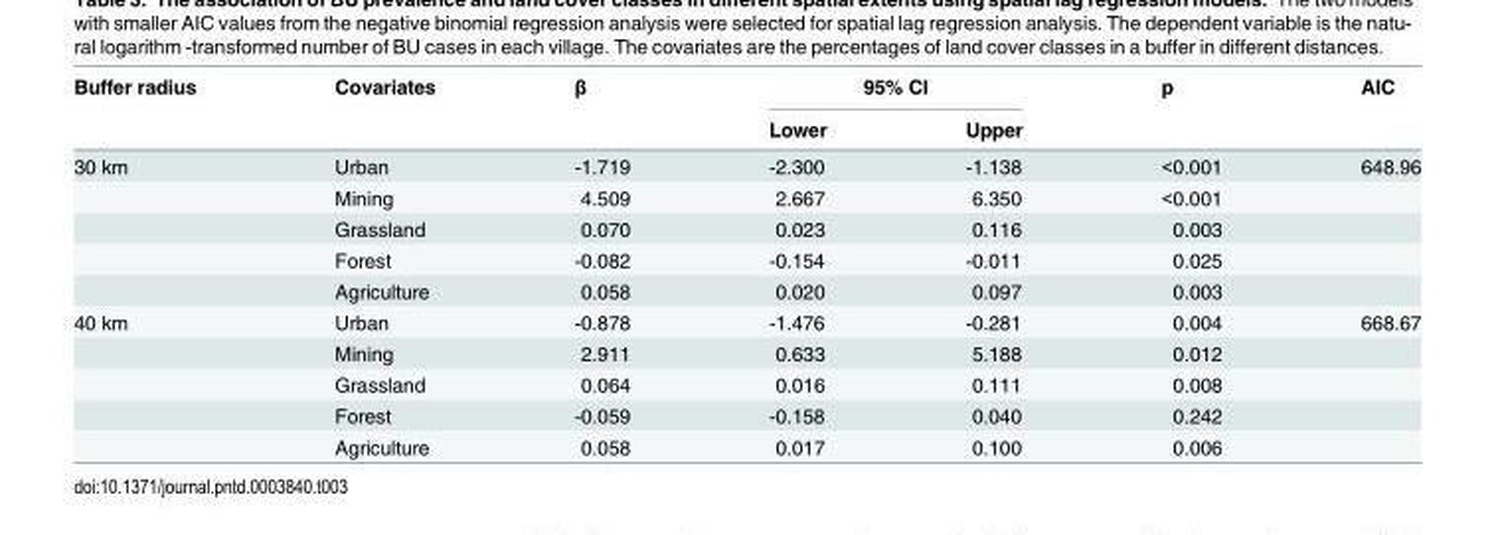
<table><thead><tr><td rowspan="2">Buffer radius</td><td rowspan="2">Covariates</td><td rowspan="2">β</td><td colspan="2">95% CI</td><td rowspan="2">p</td><td rowspan="2">AIC</td></tr><tr><td>Lower</td><td>Upper</td></tr></thead><tbody><tr><td rowspan="5">30 km</td><td>Urban</td><td>-1.719</td><td>-2.300</td><td>-1.138</td><td>&lt;0.001</td><td>648.96</td></tr><tr><td>Mining</td><td>4.509</td><td>2.667</td><td>6.350</td><td>&lt;0.001</td><td></td></tr><tr><td>Grassland</td><td>0.070</td><td>0.023</td><td>0.116</td><td>0.003</td><td></td></tr><tr><td>Forest</td><td>-0.082</td><td>-0.154</td><td>-0.011</td><td>0.025</td><td></td></tr><tr><td>Agriculture</td><td>0.058</td><td>0.020</td><td>0.097</td><td>0.003</td><td></td></tr><tr><td rowspan="5">40 km</td><td>Urban</td><td>-0.878</td><td>-1.476</td><td>-0.281</td><td>0.004</td><td>668.67</td></tr><tr><td>Mining</td><td>2.911</td><td>0.633</td><td>5.188</td><td>0.012</td><td></td></tr><tr><td>Grassland</td><td>0.064</td><td>0.016</td><td>0.111</td><td>0.008</td><td></td></tr><tr><td>Forest</td><td>-0.059</td><td>-0.158</td><td>0.040</td><td>0.242</td><td></td></tr><tr><td>Agriculture</td><td>0.058</td><td>0.017</td><td>0.100</td><td>0.006</td><td></td></tr></tbody></table>